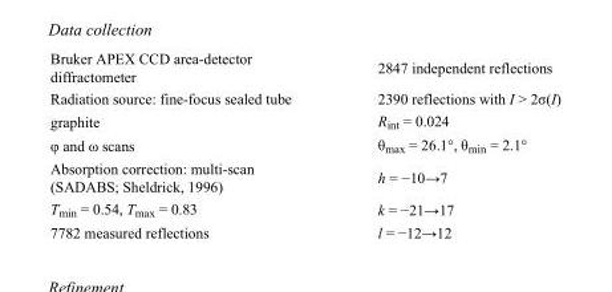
<table><tbody><tr><td>Bruker APEX CCD area-detector diffractometer</td><td>2847 independent reflections</td></tr><tr><td>Radiation source: fine-focus sealed tube</td><td>2390 reflections with I &gt; 2σ(I)</td></tr><tr><td>graphite</td><td>R<sub>int</sub> = 0.024</td></tr><tr><td>φ and ω scans</td><td>θ<sub>max</sub> = 26.1°, θ<sub>min</sub> = 2.1°</td></tr><tr><td>Absorption correction: multi-scan (SADABS; Sheldrick, 1996)</td><td>h = −10→7</td></tr><tr><td>T<sub>min</sub> = 0.54, T<sub>max</sub> = 0.83</td><td>k = −21→17</td></tr><tr><td>7782 measured reflections</td><td>l = −12→12</td></tr></tbody></table>